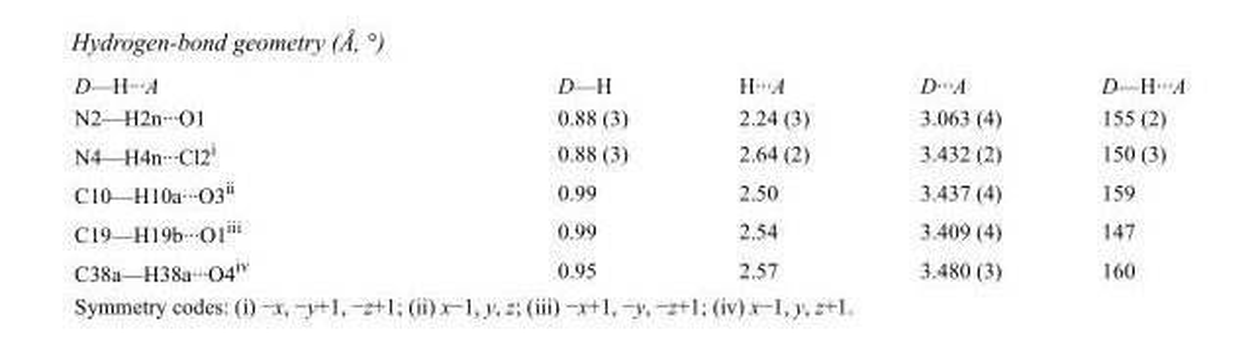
<table><tbody><tr><td>D—H···A</td><td>D—H</td><td>H···A</td><td>D···A</td><td>D—H···A</td></tr><tr><td>N2—H2n···O1</td><td>0.88 (3)</td><td>2.24 (3)</td><td>3.063 (4)</td><td>155 (2)</td></tr><tr><td>N4—H4n···Cl2<sup>i</sup></td><td>0.88 (3)</td><td>2.64 (2)</td><td>3.432 (2)</td><td>150 (3)</td></tr><tr><td>C10—H10a···O3<sup>ii</sup></td><td>0.99</td><td>2.50</td><td>3.437 (4)</td><td>159</td></tr><tr><td>C19—H19b···O1<sup>iii</sup></td><td>0.99</td><td>2.54</td><td>3.409 (4)</td><td>147</td></tr><tr><td>C38a—H38a···O4<sup>iv</sup></td><td>0.95</td><td>2.57</td><td>3.480 (3)</td><td>160</td></tr></tbody></table>